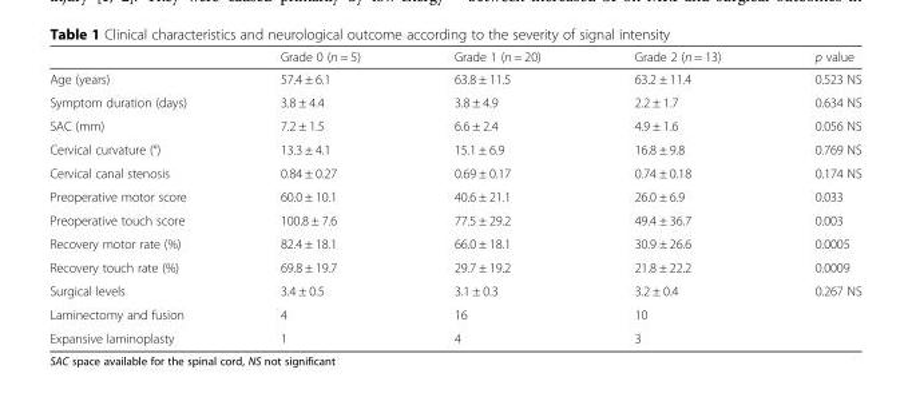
<table><thead><tr><td></td><td>Grade 0 (n = 5)</td><td>Grade 1 (n = 20)</td><td>Grade 2 (n = 13)</td><td>p value</td></tr></thead><tbody><tr><td>Age (years)</td><td>57.4 ± 6.1</td><td>63.8 ± 11.5</td><td>63.2 ± 11.4</td><td>0.523 NS</td></tr><tr><td>Symptom duration (days)</td><td>3.8 ± 4.4</td><td>3.8 ± 4.9</td><td>2.2 ± 1.7</td><td>0.634 NS</td></tr><tr><td>SAC (mm)</td><td>7.2 ± 1.5</td><td>6.6 ± 2.4</td><td>4.9 ± 1.6</td><td>0.056 NS</td></tr><tr><td>Cervical curvature (°)</td><td>13.3 ± 4.1</td><td>15.1 ± 6.9</td><td>16.8 ± 9.8</td><td>0.769 NS</td></tr><tr><td>Cervical canal stenosis</td><td>0.84 ± 0.27</td><td>0.69 ± 0.17</td><td>0.74 ± 0.18</td><td>0.174 NS</td></tr><tr><td>Preoperative motor score</td><td>60.0 ± 10.1</td><td>40.6 ± 21.1</td><td>26.0 ± 6.9</td><td>0.033</td></tr><tr><td>Preoperative touch score</td><td>100.8 ± 7.6</td><td>77.5 ± 29.2</td><td>49.4 ± 36.7</td><td>0.003</td></tr><tr><td>Recovery motor rate (%)</td><td>82.4 ± 18.1</td><td>66.0 ± 18.1</td><td>30.9 ± 26.6</td><td>0.0005</td></tr><tr><td>Recovery touch rate (%)</td><td>69.8 ± 19.7</td><td>29.7 ± 19.2</td><td>21.8 ± 22.2</td><td>0.0009</td></tr><tr><td>Surgical levels</td><td>3.4 ± 0.5</td><td>3.1 ± 0.3</td><td>3.2 ± 0.4</td><td>0.267 NS</td></tr><tr><td>Laminectomy and fusion</td><td>4</td><td>16</td><td>10</td><td></td></tr><tr><td>Expansive laminoplasty</td><td>1</td><td>4</td><td>3</td><td></td></tr></tbody></table>